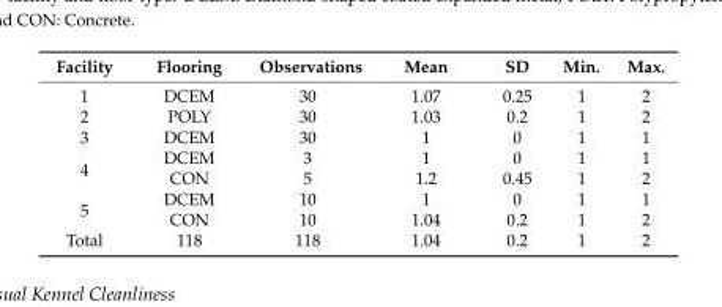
<table><thead><tr><td>Facility</td><td>Flooring</td><td>Observations</td><td>Mean</td><td>SD</td><td>Min.</td><td>Max.</td></tr></thead><tbody><tr><td>1</td><td>DCEM</td><td>30</td><td>1.07</td><td>0.25</td><td>1</td><td>2</td></tr><tr><td>2</td><td>POLY</td><td>30</td><td>1.03</td><td>0.2</td><td>1</td><td>2</td></tr><tr><td>3</td><td>DCEM</td><td>30</td><td>1</td><td>0</td><td>1</td><td>1</td></tr><tr><td rowspan="2">4</td><td>DCEM</td><td>3</td><td>1</td><td>0</td><td>1</td><td>1</td></tr><tr><td>CON</td><td>5</td><td>1.2</td><td>0.45</td><td>1</td><td>2</td></tr><tr><td rowspan="2">5</td><td>DCEM</td><td>10</td><td>1</td><td>0</td><td>1</td><td>1</td></tr><tr><td>CON</td><td>10</td><td>1.04</td><td>0.2</td><td>1</td><td>2</td></tr><tr><td>Total</td><td>118</td><td>118</td><td>1.04</td><td>0.2</td><td>1</td><td>2</td></tr></tbody></table>